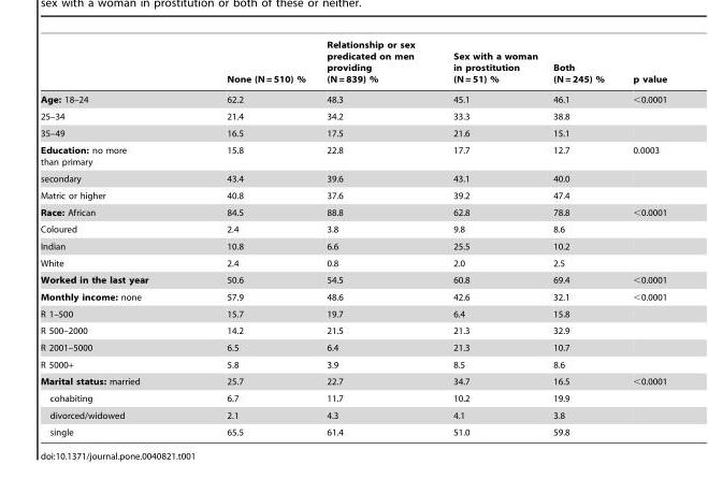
<table><thead><tr><td></td><td>None (N = 510) %</td><td>Relationship or sex predicated on men providing (N = 839) %</td><td>Sex with a woman in prostitution (N = 51) %</td><td>Both (N = 245) %</td><td>p value</td></tr></thead><tbody><tr><td>Age: 18–24</td><td>62.2</td><td>48.3</td><td>45.1</td><td>46.1</td><td>&lt;0.0001</td></tr><tr><td>25–34</td><td>21.4</td><td>34.2</td><td>33.3</td><td>38.8</td><td></td></tr><tr><td>35–49</td><td>16.5</td><td>17.5</td><td>21.6</td><td>15.1</td><td></td></tr><tr><td>Education: no more than primary</td><td>15.8</td><td>22.8</td><td>17.7</td><td>12.7</td><td>0.0003</td></tr><tr><td>secondary</td><td>43.4</td><td>39.6</td><td>43.1</td><td>40.0</td><td></td></tr><tr><td>Matric or higher</td><td>40.8</td><td>37.6</td><td>39.2</td><td>47.4</td><td></td></tr><tr><td>Race: African</td><td>84.5</td><td>88.8</td><td>62.8</td><td>78.8</td><td>&lt;0.0001</td></tr><tr><td>Coloured</td><td>2.4</td><td>3.8</td><td>9.8</td><td>8.6</td><td></td></tr><tr><td>Indian</td><td>10.8</td><td>6.6</td><td>25.5</td><td>10.2</td><td></td></tr><tr><td>White</td><td>2.4</td><td>0.8</td><td>2.0</td><td>2.5</td><td></td></tr><tr><td>Worked in the last year</td><td>50.6</td><td>54.5</td><td>60.8</td><td>69.4</td><td>&lt;0.0001</td></tr><tr><td>Monthly income: none</td><td>57.9</td><td>48.6</td><td>42.6</td><td>32.1</td><td>&lt;0.0001</td></tr><tr><td>R 1–500</td><td>15.7</td><td>19.7</td><td>6.4</td><td>15.8</td><td></td></tr><tr><td>R 500–2000</td><td>14.2</td><td>21.5</td><td>21.3</td><td>32.9</td><td></td></tr><tr><td>R 2001–5000</td><td>6.5</td><td>6.4</td><td>21.3</td><td>10.7</td><td></td></tr><tr><td>R 5000+</td><td>5.8</td><td>3.9</td><td>8.5</td><td>8.6</td><td></td></tr><tr><td>Marital status: married</td><td>25.7</td><td>22.7</td><td>34.7</td><td>16.5</td><td>&lt;0.0001</td></tr><tr><td>cohabiting</td><td>6.7</td><td>11.7</td><td>10.2</td><td>19.9</td><td></td></tr><tr><td>divorced/widowed</td><td>2.1</td><td>4.3</td><td>4.1</td><td>3.8</td><td></td></tr><tr><td>single</td><td>65.5</td><td>61.4</td><td>51.0</td><td>59.8</td><td></td></tr></tbody></table>